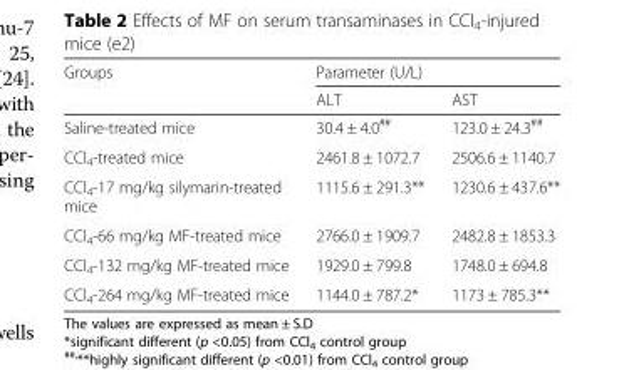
<table><thead><tr><td rowspan="2">Groups</td><td colspan="2">Parameter (U/L)</td></tr><tr><td>ALT</td><td>AST</td></tr></thead><tbody><tr><td>Saline-treated mice</td><td>30.4 ± 4.0<sup>##</sup></td><td>123.0 ± 24.3<sup>##</sup></td></tr><tr><td>CCl<sub>4</sub>-treated mice</td><td>2461.8 ± 1072.7</td><td>2506.6 ± 1140.7</td></tr><tr><td>CCl<sub>4</sub>-17 mg/kg silymarin-treated mice</td><td>1115.6 ± 291.3**</td><td>1230.6 ± 437.6**</td></tr><tr><td>CCl<sub>4</sub>-66 mg/kg MF-treated mice</td><td>2766.0 ± 1909.7</td><td>2482.8 ± 1853.3</td></tr><tr><td>CCl<sub>4</sub>-132 mg/kg MF-treated mice</td><td>1929.0 ± 799.8</td><td>1748.0 ± 694.8</td></tr><tr><td>CCl<sub>4</sub>-264 mg/kg MF-treated mice</td><td>1144.0 ± 787.2*</td><td>1173 ± 785.3**</td></tr></tbody></table>